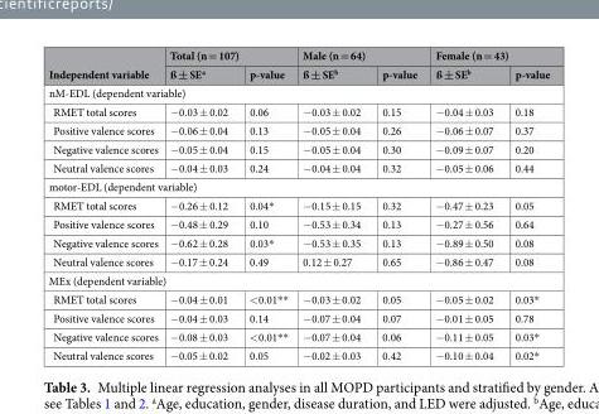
<table><thead><tr><td rowspan="2">Independent variable</td><td colspan="2">Total (n = 107)</td><td colspan="2">Male (n = 64)</td><td colspan="2">Female (n = 43)</td></tr><tr><td>ß ± SE<sup>a</sup></td><td>p-value</td><td>ß ± SE<sup>b</sup></td><td>p-value</td><td>ß ± SE<sup>b</sup></td><td>p-value</td></tr></thead><tbody><tr><td colspan="7">nM-EDL (dependent variable)</td></tr><tr><td>RMET total scores</td><td>−0.03 ± 0.02</td><td>0.06</td><td>−0.03 ± 0.02</td><td>0.15</td><td>−0.04 ± 0.03</td><td>0.18</td></tr><tr><td>Positive valence scores</td><td>−0.06 ± 0.04</td><td>0.13</td><td>−0.05 ± 0.04</td><td>0.26</td><td>−0.06 ± 0.07</td><td>0.37</td></tr><tr><td>Negative valence scores</td><td>−0.05 ± 0.04</td><td>0.15</td><td>−0.05 ± 0.04</td><td>0.30</td><td>−0.09 ± 0.07</td><td>0.20</td></tr><tr><td>Neutral valence scores</td><td>−0.04 ± 0.03</td><td>0.24</td><td>−0.04 ± 0.04</td><td>0.32</td><td>−0.05 ± 0.06</td><td>0.44</td></tr><tr><td colspan="7">motor-EDL (dependent variable)</td></tr><tr><td>RMET total scores</td><td>−0.26 ± 0.12</td><td>0.04*</td><td>−0.15 ± 0.15</td><td>0.32</td><td>−0.47 ± 0.23</td><td>0.05</td></tr><tr><td>Positive valence scores</td><td>−0.48 ± 0.29</td><td>0.10</td><td>−0.53 ± 0.34</td><td>0.13</td><td>−0.27 ± 0.56</td><td>0.64</td></tr><tr><td>Negative valence scores</td><td>−0.62 ± 0.28</td><td>0.03*</td><td>−0.53 ± 0.35</td><td>0.13</td><td>−0.89 ± 0.50</td><td>0.08</td></tr><tr><td>Neutral valence scores</td><td>−0.17 ± 0.24</td><td>0.49</td><td>0.12 ± 0.27</td><td>0.65</td><td>−0.86 ± 0.47</td><td>0.08</td></tr><tr><td colspan="7">MEx (dependent variable)</td></tr><tr><td>RMET total scores</td><td>−0.04 ± 0.01</td><td>&lt;0.01**</td><td>−0.03 ± 0.02</td><td>0.05</td><td>−0.05 ± 0.02</td><td>0.03*</td></tr><tr><td>Positive valence scores</td><td>−0.04 ± 0.03</td><td>0.14</td><td>−0.07 ± 0.04</td><td>0.07</td><td>−0.01 ± 0.05</td><td>0.78</td></tr><tr><td>Negative valence scores</td><td>−0.08 ± 0.03</td><td>&lt;0.01**</td><td>−0.07 ± 0.04</td><td>0.06</td><td>−0.11 ± 0.05</td><td>0.03*</td></tr><tr><td>Neutral valence scores</td><td>−0.05 ± 0.02</td><td>0.05</td><td>−0.02 ± 0.03</td><td>0.42</td><td>−0.10 ± 0.04</td><td>0.02*</td></tr></tbody></table>